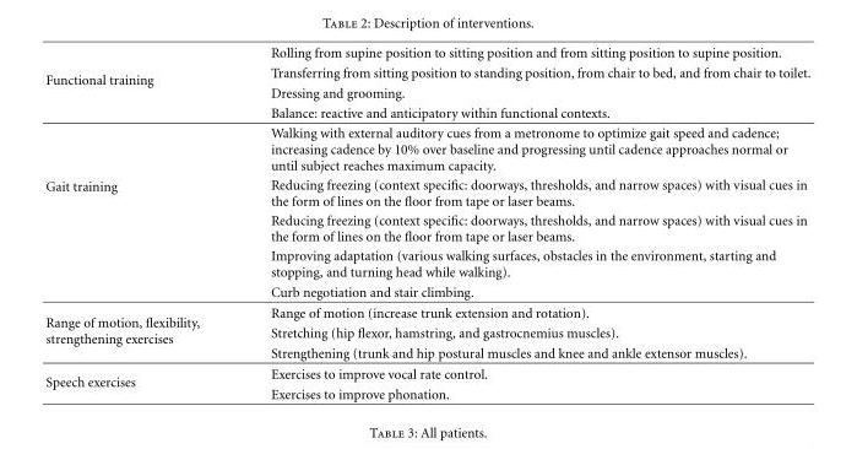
<table><tbody><tr><td rowspan="4">Functional training</td><td>Rolling from supine position to sitting position and from sitting position to supine position.</td></tr><tr><td>Transferring from sitting position to standing position, from chair to bed, and from chair to toilet.</td></tr><tr><td>Dressing and grooming.</td></tr><tr><td>Balance: reactive and anticipatory within functional contexts.</td></tr><tr><td rowspan="5">Gait training</td><td>Walking with external auditory cues from a metronome to optimize gait speed and cadence; increasing cadence by 10% over baseline and progressing until cadence approaches normal or until subject reaches maximum capacity.</td></tr><tr><td>Reducing freezing (context specific: doorways, thresholds, and narrow spaces) with visual cues in the form of lines on the floor from tape or laser beams.</td></tr><tr><td>Reducing freezing (context specific: doorways, thresholds, and narrow spaces) with visual cues in the form of lines on the floor from tape or laser beams.</td></tr><tr><td>Improving adaptation (various walking surfaces, obstacles in the environment, starting and stopping, and turning head while walking).</td></tr><tr><td>Curb negotiation and stair climbing.</td></tr><tr><td rowspan="3">Range of motion, flexibility, strengthening exercises</td><td>Range of motion (increase trunk extension and rotation).</td></tr><tr><td>Stretching (hip flexor, hamstring, and gastrocnemius muscles).</td></tr><tr><td>Strengthening (trunk and hip postural muscles and knee and ankle extensor muscles).</td></tr><tr><td rowspan="2">Speech exercises</td><td>Exercises to improve vocal rate control.</td></tr><tr><td>Exercises to improve phonation.</td></tr></tbody></table>